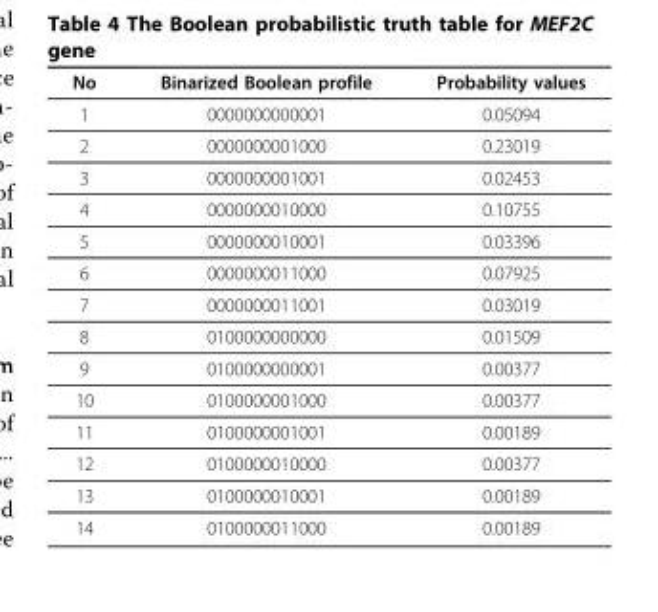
<table><thead><tr><td>No</td><td>Binarized Boolean profile</td><td>Probability values</td></tr></thead><tbody><tr><td>1</td><td>0000000000001</td><td>0.05094</td></tr><tr><td>2</td><td>0000000001000</td><td>0.23019</td></tr><tr><td>3</td><td>0000000001001</td><td>0.02453</td></tr><tr><td>4</td><td>0000000010000</td><td>0.10755</td></tr><tr><td>5</td><td>0000000010001</td><td>0.03396</td></tr><tr><td>6</td><td>0000000011000</td><td>0.07925</td></tr><tr><td>7</td><td>0000000011001</td><td>0.03019</td></tr><tr><td>8</td><td>0100000000000</td><td>0.01509</td></tr><tr><td>9</td><td>0100000000001</td><td>0.00377</td></tr><tr><td>10</td><td>0100000001000</td><td>0.00377</td></tr><tr><td>11</td><td>0100000001001</td><td>0.00189</td></tr><tr><td>12</td><td>0100000010000</td><td>0.00377</td></tr><tr><td>13</td><td>0100000010001</td><td>0.00189</td></tr><tr><td>14</td><td>0100000011000</td><td>0.00189</td></tr></tbody></table>